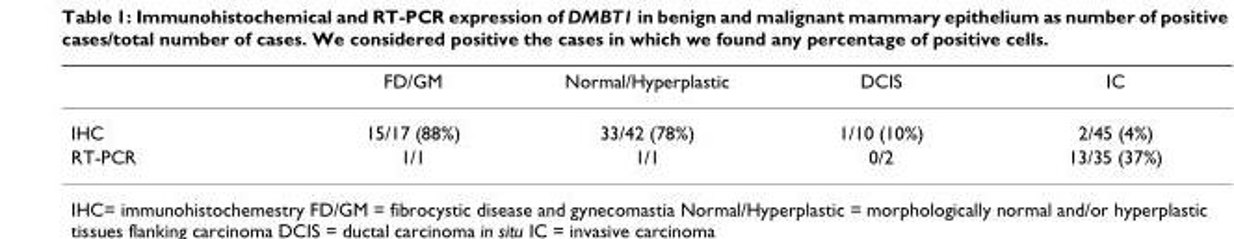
<table><thead><tr><td></td><td>FD/GM</td><td>Normal/Hyperplastic</td><td>DCIS</td><td>IC</td></tr></thead><tbody><tr><td>IHC</td><td>15/17 (88%)</td><td>33/42 (78%)</td><td>1/10 (10%)</td><td>2/45 (4%)</td></tr><tr><td>RT-PCR</td><td>1/1</td><td>1/1</td><td>0/2</td><td>13/35 (37%)</td></tr></tbody></table>